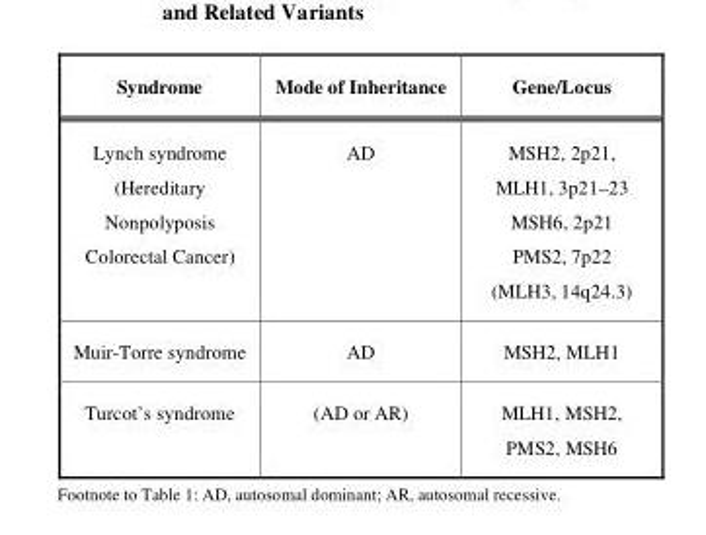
<table><thead><tr><td>Syndrome</td><td>Mode of Inheritance</td><td>Gene/Locus</td></tr></thead><tbody><tr><td>Lynch syndrome (Hereditary Nonpolyposis Colorectal Cancer)</td><td>AD</td><td>MSH2, 2p21, MLH1, 3p21–23 MSH6, 2p21 PMS2, 7p22 (MLH3, 14q24.3)</td></tr><tr><td>Muir-Torre syndrome</td><td>AD</td><td>MSH2, MLH1</td></tr><tr><td>Turcot’s syndrome</td><td>(AD or AR)</td><td>MLH1, MSH2, PMS2, MSH6</td></tr></tbody></table>